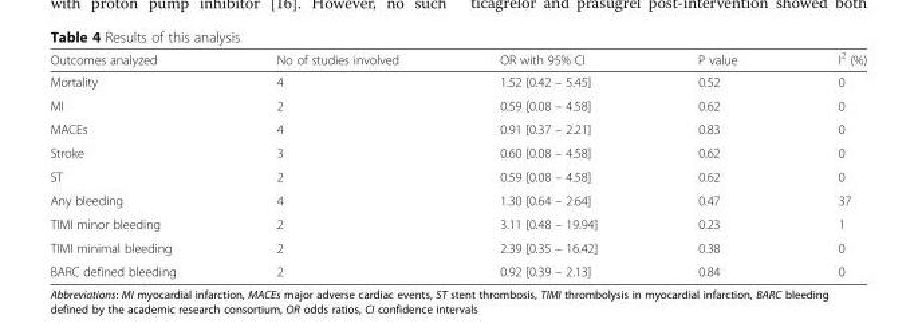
<table><thead><tr><td>Outcomes analyzed</td><td>No of studies involved</td><td>OR with 95% CI</td><td>P value</td><td>I<sup>2</sup> (%)</td></tr></thead><tbody><tr><td>Mortality</td><td>4</td><td>1.52 [0.42 – 5.45]</td><td>0.52</td><td>0</td></tr><tr><td>MI</td><td>2</td><td>0.59 [0.08 – 4.58]</td><td>0.62</td><td>0</td></tr><tr><td>MACEs</td><td>4</td><td>0.91 [0.37 – 2.21]</td><td>0.83</td><td>0</td></tr><tr><td>Stroke</td><td>3</td><td>0.60 [0.08 – 4.58]</td><td>0.62</td><td>0</td></tr><tr><td>ST</td><td>2</td><td>0.59 [0.08 – 4.58]</td><td>0.62</td><td>0</td></tr><tr><td>Any bleeding</td><td>4</td><td>1.30 [0.64 – 2.64]</td><td>0.47</td><td>37</td></tr><tr><td>TIMI minor bleeding</td><td>2</td><td>3.11 [0.48 – 19.94]</td><td>0.23</td><td>1</td></tr><tr><td>TIMI minimal bleeding</td><td>2</td><td>2.39 [0.35 – 16.42]</td><td>0.38</td><td>0</td></tr><tr><td>BARC defined bleeding</td><td>2</td><td>0.92 [0.39 – 2.13]</td><td>0.84</td><td>0</td></tr></tbody></table>